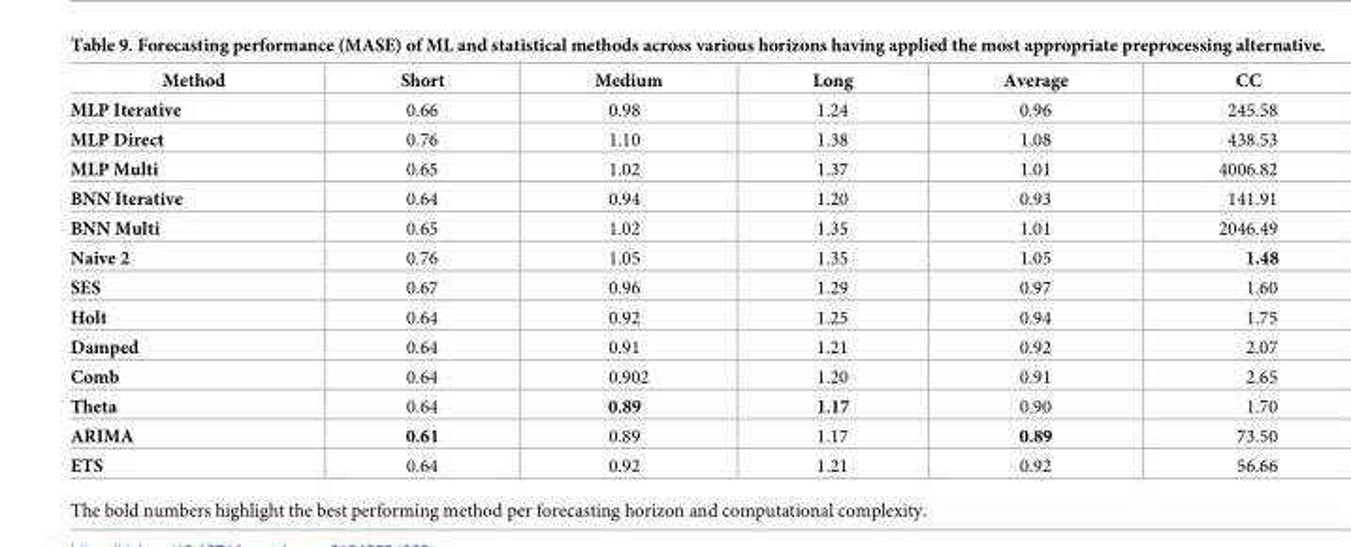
<table><thead><tr><td>Method</td><td>Short</td><td>Medium</td><td>Long</td><td>Average</td><td>CC</td></tr></thead><tbody><tr><td>MLP Iterative</td><td>0.66</td><td>0.98</td><td>1.24</td><td>0.96</td><td>245.58</td></tr><tr><td>MLP Direct</td><td>0.76</td><td>1.10</td><td>1.38</td><td>1.08</td><td>438.53</td></tr><tr><td>MLP Multi</td><td>0.65</td><td>1.02</td><td>1.37</td><td>1.01</td><td>4006.82</td></tr><tr><td>BNN Iterative</td><td>0.64</td><td>0.94</td><td>1.20</td><td>0.93</td><td>141.91</td></tr><tr><td>BNN Multi</td><td>0.65</td><td>1.02</td><td>1.35</td><td>1.01</td><td>2046.49</td></tr><tr><td>Naive 2</td><td>0.76</td><td>1.05</td><td>1.35</td><td>1.05</td><td>1.48</td></tr><tr><td>SES</td><td>0.67</td><td>0.96</td><td>1.29</td><td>0.97</td><td>1.60</td></tr><tr><td>Holt</td><td>0.64</td><td>0.92</td><td>1.25</td><td>0.94</td><td>1.75</td></tr><tr><td>Damped</td><td>0.64</td><td>0.91</td><td>1.21</td><td>0.92</td><td>2.07</td></tr><tr><td>Comb</td><td>0.64</td><td>0.902</td><td>1.20</td><td>0.91</td><td>2.65</td></tr><tr><td>Theta</td><td>0.64</td><td>0.89</td><td>1.17</td><td>0.90</td><td>1.70</td></tr><tr><td>ARIMA</td><td>0.61</td><td>0.89</td><td>1.17</td><td>0.89</td><td>73.50</td></tr><tr><td>ETS</td><td>0.64</td><td>0.92</td><td>1.21</td><td>0.92</td><td>56.66</td></tr></tbody></table>